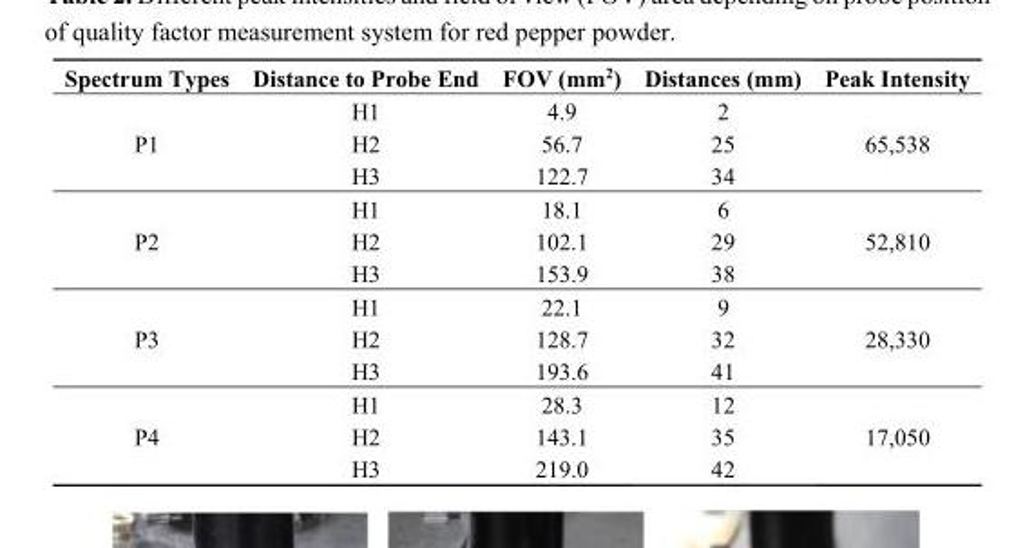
<table><thead><tr><td>Spectrum Types</td><td>Distance to Probe End</td><td>FOV (mm<sup>2</sup>)</td><td>Distances (mm)</td><td>Peak Intensity</td></tr></thead><tbody><tr><td rowspan="3">P1</td><td>H1</td><td>4.9</td><td>2</td><td rowspan="3">65,538</td></tr><tr><td>H2</td><td>56.7</td><td>25</td></tr><tr><td>H3</td><td>122.7</td><td>34</td></tr><tr><td rowspan="3">P2</td><td>H1</td><td>18.1</td><td>6</td><td rowspan="3">52,810</td></tr><tr><td>H2</td><td>102.1</td><td>29</td></tr><tr><td>H3</td><td>153.9</td><td>38</td></tr><tr><td rowspan="3">P3</td><td>H1</td><td>22.1</td><td>9</td><td rowspan="3">28,330</td></tr><tr><td>H2</td><td>128.7</td><td>32</td></tr><tr><td>H3</td><td>193.6</td><td>41</td></tr><tr><td rowspan="3">P4</td><td>H1</td><td>28.3</td><td>12</td><td rowspan="3">17,050</td></tr><tr><td>H2</td><td>143.1</td><td>35</td></tr><tr><td>H3</td><td>219.0</td><td>42</td></tr></tbody></table>